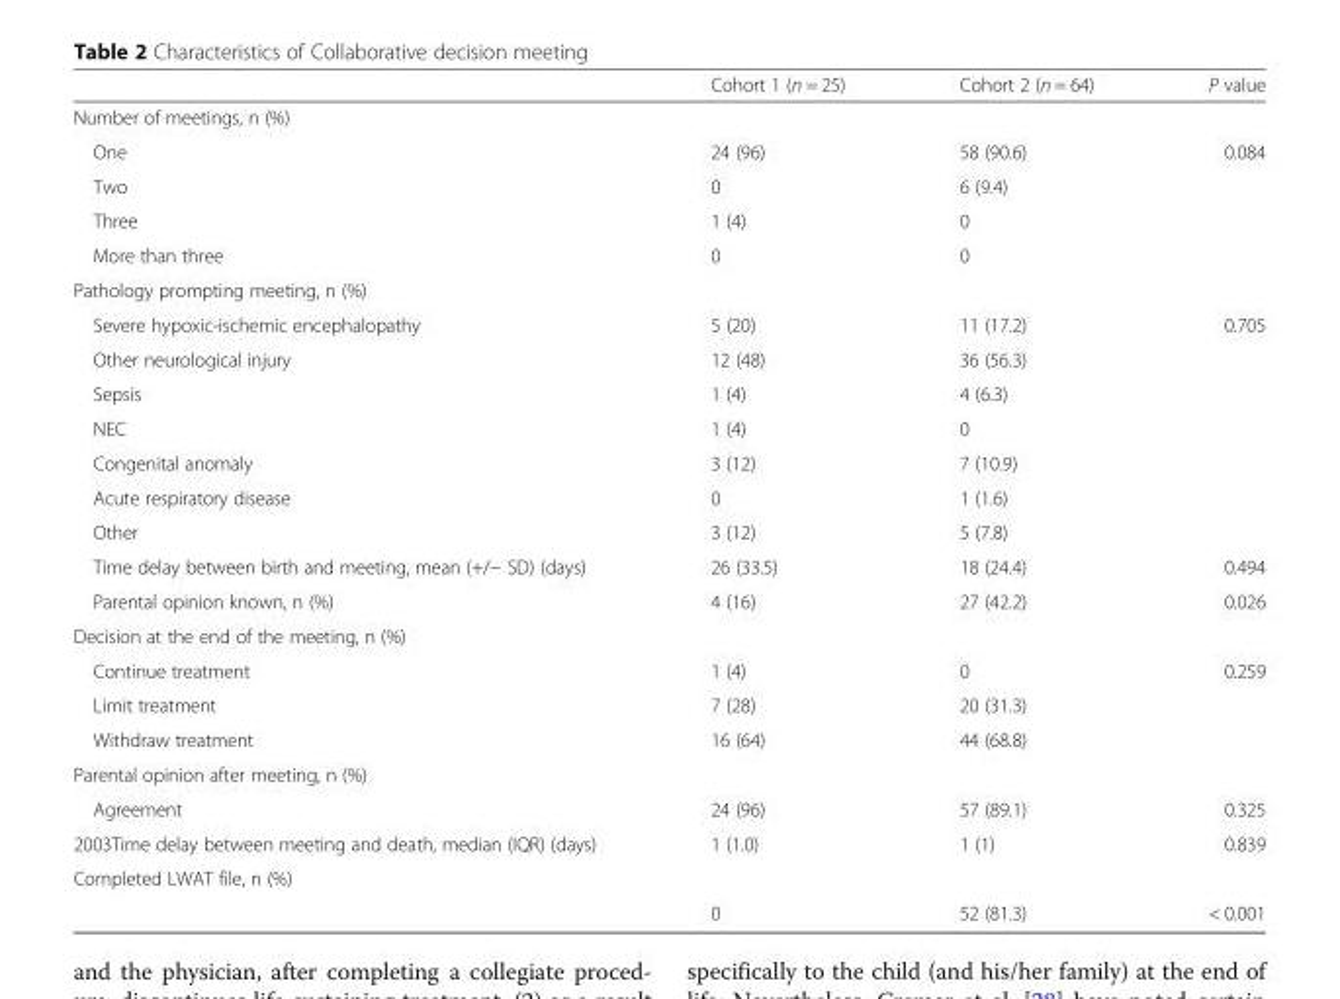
<table><thead><tr><td></td><td>Cohort 1 (n = 25)</td><td>Cohort 2 (n = 64)</td><td>P value</td></tr></thead><tbody><tr><td colspan="4">Number of meetings, n (%)</td></tr><tr><td>One</td><td>24 (96)</td><td>58 (90.6)</td><td rowspan="4">0.084</td></tr><tr><td>Two</td><td>0</td><td>6 (9.4)</td></tr><tr><td>Three</td><td>1 (4)</td><td>0</td></tr><tr><td>More than three</td><td>0</td><td>0</td></tr><tr><td colspan="4">Pathology prompting meeting, n (%)</td></tr><tr><td>Severe hypoxic-ischemic encephalopathy</td><td>5 (20)</td><td>11 (17.2)</td><td rowspan="7">0.705</td></tr><tr><td>Other neurological injury</td><td>12 (48)</td><td>36 (56.3)</td></tr><tr><td>Sepsis</td><td>1 (4)</td><td>4 (6.3)</td></tr><tr><td>NEC</td><td>1 (4)</td><td>0</td></tr><tr><td>Congenital anomaly</td><td>3 (12)</td><td>7 (10.9)</td></tr><tr><td>Acute respiratory disease</td><td>0</td><td>1 (1.6)</td></tr><tr><td>Other</td><td>3 (12)</td><td>5 (7.8)</td></tr><tr><td>Time delay between birth and meeting, mean (+/− SD) (days)</td><td>26 (33.5)</td><td>18 (24.4)</td><td>0.494</td></tr><tr><td>Parental opinion known, n (%)</td><td>4 (16)</td><td>27 (42.2)</td><td>0.026</td></tr><tr><td colspan="4">Decision at the end of the meeting, n (%)</td></tr><tr><td>Continue treatment</td><td>1 (4)</td><td>0</td><td rowspan="3">0.259</td></tr><tr><td>Limit treatment</td><td>7 (28)</td><td>20 (31.3)</td></tr><tr><td>Withdraw treatment</td><td>16 (64)</td><td>44 (68.8)</td></tr><tr><td colspan="4">Parental opinion after meeting, n (%)</td></tr><tr><td>Agreement</td><td>24 (96)</td><td>57 (89.1)</td><td>0.325</td></tr><tr><td>2003Time delay between meeting and death, median (IQR) (days)</td><td>1 (1.0)</td><td>1 (1)</td><td>0.839</td></tr><tr><td colspan="4">Completed LWAT file, n (%)</td></tr><tr><td></td><td>0</td><td>52 (81.3)</td><td>&lt; 0.001</td></tr></tbody></table>